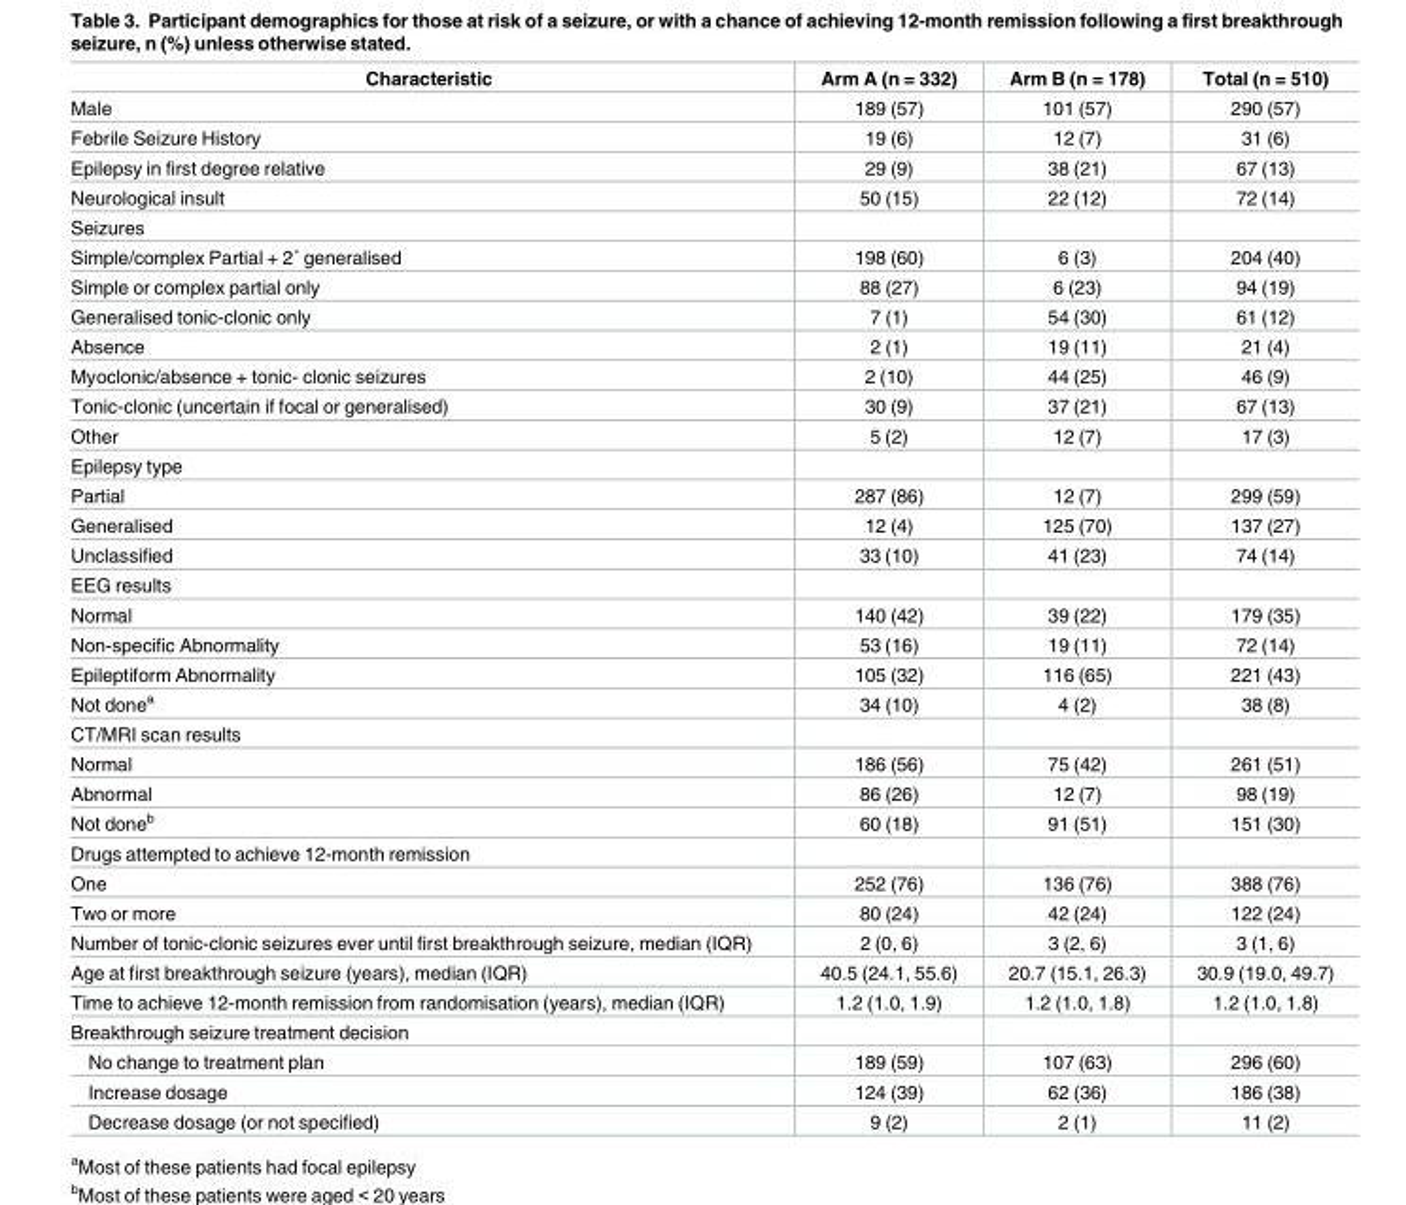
<table><thead><tr><td>Characteristic</td><td>Arm A (n = 332)</td><td>Arm B (n = 178)</td><td>Total (n = 510)</td></tr></thead><tbody><tr><td>Male</td><td>189 (57)</td><td>101 (57)</td><td>290 (57)</td></tr><tr><td>Febrile Seizure History</td><td>19 (6)</td><td>12 (7)</td><td>31 (6)</td></tr><tr><td>Epilepsy in first degree relative</td><td>29 (9)</td><td>38 (21)</td><td>67 (13)</td></tr><tr><td>Neurological insult</td><td>50 (15)</td><td>22 (12)</td><td>72 (14)</td></tr><tr><td colspan="4">Seizures</td></tr><tr><td>Simple/complex Partial + 2˚ generalised</td><td>198 (60)</td><td>6 (3)</td><td>204 (40)</td></tr><tr><td>Simple or complex partial only</td><td>88 (27)</td><td>6 (23)</td><td>94 (19)</td></tr><tr><td>Generalised tonic-clonic only</td><td>7 (1)</td><td>54 (30)</td><td>61 (12)</td></tr><tr><td>Absence</td><td>2 (1)</td><td>19 (11)</td><td>21 (4)</td></tr><tr><td>Myoclonic/absence + tonic- clonic seizures</td><td>2 (10)</td><td>44 (25)</td><td>46 (9)</td></tr><tr><td>Tonic-clonic (uncertain if focal or generalised)</td><td>30 (9)</td><td>37 (21)</td><td>67 (13)</td></tr><tr><td>Other</td><td>5 (2)</td><td>12 (7)</td><td>17 (3)</td></tr><tr><td colspan="4">Epilepsy type</td></tr><tr><td>Partial</td><td>287 (86)</td><td>12 (7)</td><td>299 (59)</td></tr><tr><td>Generalised</td><td>12 (4)</td><td>125 (70)</td><td>137 (27)</td></tr><tr><td>Unclassified</td><td>33 (10)</td><td>41 (23)</td><td>74 (14)</td></tr><tr><td colspan="4">EEG results</td></tr><tr><td>Normal</td><td>140 (42)</td><td>39 (22)</td><td>179 (35)</td></tr><tr><td>Non-specific Abnormality</td><td>53 (16)</td><td>19 (11)</td><td>72 (14)</td></tr><tr><td>Epileptiform Abnormality</td><td>105 (32)</td><td>116 (65)</td><td>221 (43)</td></tr><tr><td>Not done<sup>a</sup></td><td>34 (10)</td><td>4 (2)</td><td>38 (8)</td></tr><tr><td colspan="4">CT/MRI scan results</td></tr><tr><td>Normal</td><td>186 (56)</td><td>75 (42)</td><td>261 (51)</td></tr><tr><td>Abnormal</td><td>86 (26)</td><td>12 (7)</td><td>98 (19)</td></tr><tr><td>Not done<sup>b</sup></td><td>60 (18)</td><td>91 (51)</td><td>151 (30)</td></tr><tr><td colspan="4">Drugs attempted to achieve 12-month remission</td></tr><tr><td>One</td><td>252 (76)</td><td>136 (76)</td><td>388 (76)</td></tr><tr><td>Two or more</td><td>80 (24)</td><td>42 (24)</td><td>122 (24)</td></tr><tr><td>Number of tonic-clonic seizures ever until first breakthrough seizure, median (IQR)</td><td>2 (0, 6)</td><td>3 (2, 6)</td><td>3 (1, 6)</td></tr><tr><td>Age at first breakthrough seizure (years), median (IQR)</td><td>40.5 (24.1, 55.6)</td><td>20.7 (15.1, 26.3)</td><td>30.9 (19.0, 49.7)</td></tr><tr><td>Time to achieve 12-month remission from randomisation (years), median (IQR)</td><td>1.2 (1.0, 1.9)</td><td>1.2 (1.0, 1.8)</td><td>1.2 (1.0, 1.8)</td></tr><tr><td colspan="4">Breakthrough seizure treatment decision</td></tr><tr><td>No change to treatment plan</td><td>189 (59)</td><td>107 (63)</td><td>296 (60)</td></tr><tr><td>Increase dosage</td><td>124 (39)</td><td>62 (36)</td><td>186 (38)</td></tr><tr><td>Decrease dosage (or not specified)</td><td>9 (2)</td><td>2 (1)</td><td>11 (2)</td></tr></tbody></table>